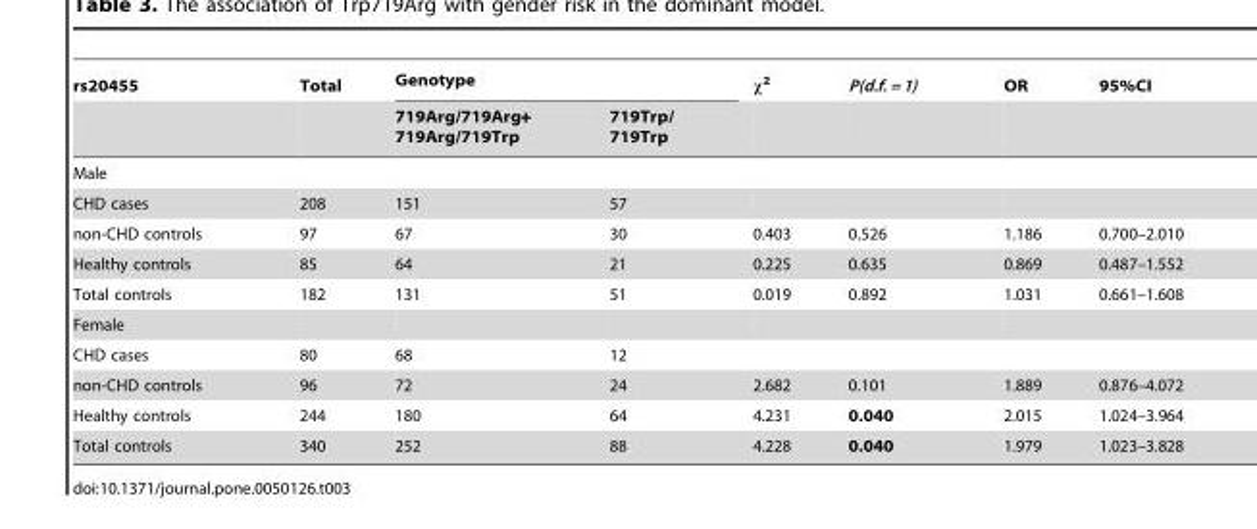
<table><thead><tr><td rowspan="2">rs20455</td><td rowspan="2">Total</td><td colspan="2">Genotype</td><td rowspan="2">x2</td><td rowspan="2">P(d.f. = 1)</td><td rowspan="2">OR</td><td rowspan="2">95%CI</td></tr><tr><td>719Arg/719Arg+ 719Arg/719Trp</td><td>719Trp/ 719Trp</td></tr></thead><tbody><tr><td colspan="8">Male</td></tr><tr><td>CHD cases</td><td>208</td><td>151</td><td>57</td><td></td><td></td><td></td><td></td></tr><tr><td>non-CHD controls</td><td>97</td><td>67</td><td>30</td><td>0.403</td><td>0.526</td><td>1.186</td><td>0.700–2.010</td></tr><tr><td>Healthy controls</td><td>85</td><td>64</td><td>21</td><td>0.225</td><td>0.635</td><td>0.869</td><td>0.487–1.552</td></tr><tr><td>Total controls</td><td>182</td><td>131</td><td>51</td><td>0.019</td><td>0.892</td><td>1.031</td><td>0.661–1.608</td></tr><tr><td colspan="8">Female</td></tr><tr><td>CHD cases</td><td>80</td><td>68</td><td>12</td><td></td><td></td><td></td><td></td></tr><tr><td>non-CHD controls</td><td>96</td><td>72</td><td>24</td><td>2.682</td><td>0.101</td><td>1.889</td><td>0.876–4.072</td></tr><tr><td>Healthy controls</td><td>244</td><td>180</td><td>64</td><td>4.231</td><td>0.040</td><td>2.015</td><td>1.024–3.964</td></tr><tr><td>Total controls</td><td>340</td><td>252</td><td>88</td><td>4.228</td><td>0.040</td><td>1.979</td><td>1.023–3.828</td></tr></tbody></table>